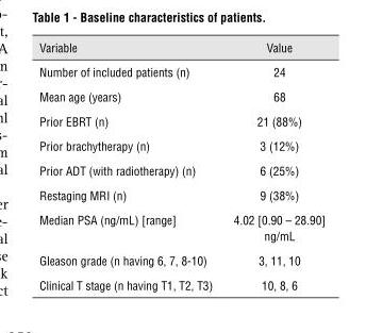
<table><thead><tr><td>Variable</td><td>Value</td></tr></thead><tbody><tr><td>Number of included patients (n)</td><td>24</td></tr><tr><td>Mean age (years)</td><td>68</td></tr><tr><td>Prior EBRT (n)</td><td>21 (88%)</td></tr><tr><td>Prior brachytherapy (n)</td><td>3 (12%)</td></tr><tr><td>Prior ADT (with radiotherapy) (n)</td><td>6 (25%)</td></tr><tr><td>Restaging MRI (n)</td><td>9 (38%)</td></tr><tr><td>Median PSA (ng/mL) [range]</td><td>4.02 [0.90 – 28.90] ng/mL</td></tr><tr><td>Gleason grade (n having 6, 7, 8-10)</td><td>3, 11, 10</td></tr><tr><td>Clinical T stage (n having T1, T2, T3)</td><td>10, 8, 6</td></tr></tbody></table>